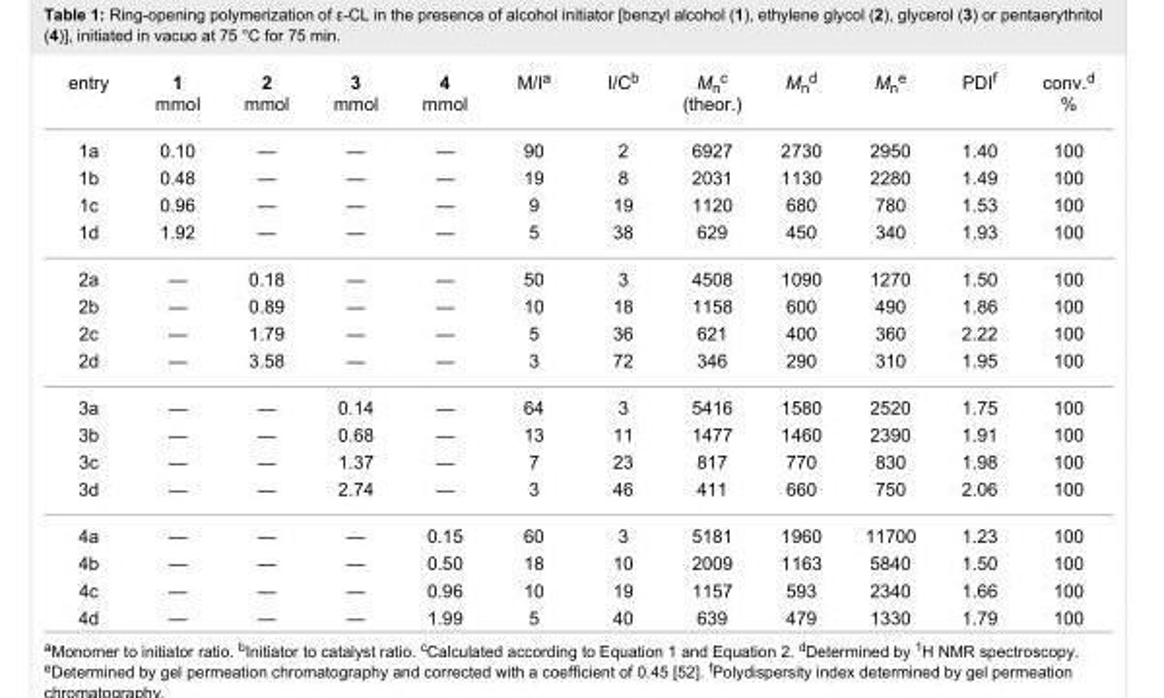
<table><tbody><tr><td>entry</td><td>1 mmol</td><td>2 mmol</td><td>3 mmol</td><td>4 mmol</td><td>M/I<sup>a</sup></td><td>I/C<sup>b</sup></td><td>M<sub>n</sub><sup>c</sup> (theor.)</td><td>M<sub>n</sub><sup>d</sup></td><td>M<sub>n</sub><sup>e</sup></td><td>PDI<sup>f</sup></td><td>conv.<sup>d</sup> %</td></tr><tr><td>1a</td><td>0.10</td><td>—</td><td>—</td><td>—</td><td>90</td><td>2</td><td>6927</td><td>2730</td><td>2950</td><td>1.40</td><td>100</td></tr><tr><td>1b</td><td>0.48</td><td>—</td><td>—</td><td>—</td><td>19</td><td>8</td><td>2031</td><td>1130</td><td>2280</td><td>1.49</td><td>100</td></tr><tr><td>1c</td><td>0.96</td><td>—</td><td>—</td><td>—</td><td>9</td><td>19</td><td>1120</td><td>680</td><td>780</td><td>1.53</td><td>100</td></tr><tr><td>1d</td><td>1.92</td><td>—</td><td>—</td><td>—</td><td>5</td><td>38</td><td>629</td><td>450</td><td>340</td><td>1.93</td><td>100</td></tr><tr><td>2a</td><td>—</td><td>0.18</td><td>—</td><td>—</td><td>50</td><td>3</td><td>4508</td><td>1090</td><td>1270</td><td>1.50</td><td>100</td></tr><tr><td>2b</td><td>—</td><td>0.89</td><td>—</td><td>—</td><td>10</td><td>18</td><td>1158</td><td>600</td><td>490</td><td>1.86</td><td>100</td></tr><tr><td>2c</td><td>—</td><td>1.79</td><td>—</td><td>—</td><td>5</td><td>36</td><td>621</td><td>400</td><td>360</td><td>2.22</td><td>100</td></tr><tr><td>2d</td><td>—</td><td>3.58</td><td>—</td><td>—</td><td>3</td><td>72</td><td>346</td><td>290</td><td>310</td><td>1.95</td><td>100</td></tr><tr><td>3a</td><td>—</td><td>—</td><td>0.14</td><td>—</td><td>64</td><td>3</td><td>5416</td><td>1580</td><td>2520</td><td>1.75</td><td>100</td></tr><tr><td>3b</td><td>—</td><td>—</td><td>0.68</td><td>—</td><td>13</td><td>11</td><td>1477</td><td>1460</td><td>2390</td><td>1.91</td><td>100</td></tr><tr><td>3c</td><td>—</td><td>—</td><td>1.37</td><td>—</td><td>7</td><td>23</td><td>817</td><td>770</td><td>830</td><td>1.98</td><td>100</td></tr><tr><td>3d</td><td>—</td><td>—</td><td>2.74</td><td>—</td><td>3</td><td>46</td><td>411</td><td>660</td><td>750</td><td>2.06</td><td>100</td></tr><tr><td>4a</td><td>—</td><td>—</td><td>—</td><td>0.15</td><td>60</td><td>3</td><td>5181</td><td>1960</td><td>11700</td><td>1.23</td><td>100</td></tr><tr><td>4b</td><td>—</td><td>—</td><td>—</td><td>0.50</td><td>18</td><td>10</td><td>2009</td><td>1163</td><td>5840</td><td>1.50</td><td>100</td></tr><tr><td>4c</td><td>—</td><td>—</td><td>—</td><td>0.96</td><td>10</td><td>19</td><td>1157</td><td>593</td><td>2340</td><td>1.66</td><td>100</td></tr><tr><td>4d</td><td>—</td><td>—</td><td>—</td><td>1.99</td><td>5</td><td>40</td><td>639</td><td>479</td><td>1330</td><td>1.79</td><td>100</td></tr></tbody></table>